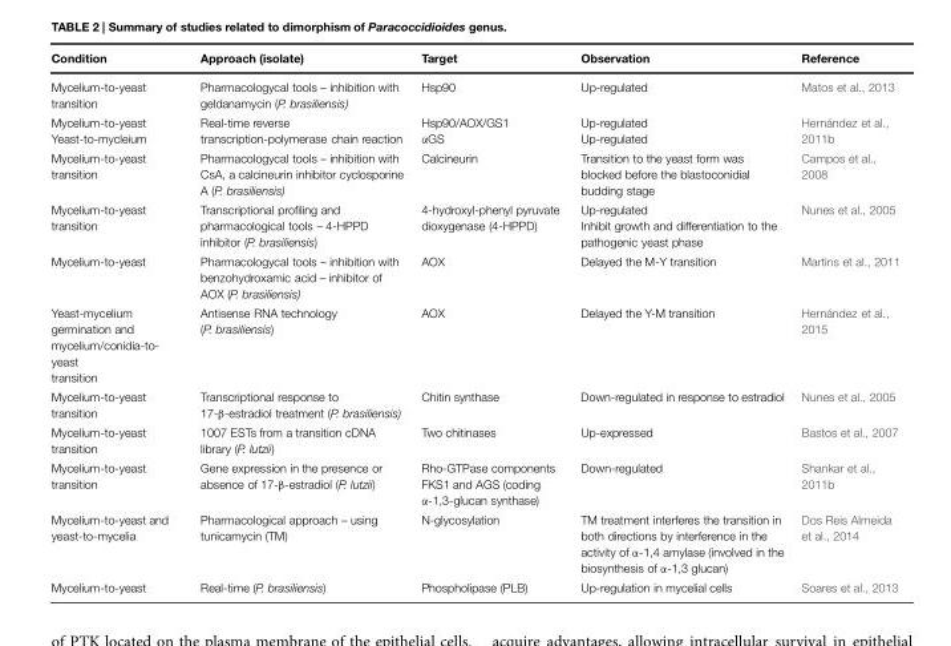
<table><thead><tr><td>Condition</td><td>Approach (isolate)</td><td>Target</td><td>Observation</td><td>Reference</td></tr></thead><tbody><tr><td>Mycelium-to-yeast transition</td><td>Pharmacologycal tools – inhibition with geldanamycin (P. brasiliensis)</td><td>Hsp90</td><td>Up-regulated</td><td>Matos et al., 2013</td></tr><tr><td>Mycelium-to-yeast Yeast-to-mycleium</td><td>Real-time reverse transcription-polymerase chain reaction</td><td>Hsp90/AOX/GS1 αGS</td><td>Up-regulated Up-regulated</td><td>Hernández et al., 2011b</td></tr><tr><td>Mycelium-to-yeast transition</td><td>Pharmacologycal tools – inhibition with CsA, a calcineurin inhibitor cyclosporine A (P. brasiliensis)</td><td>Calcineurin</td><td>Transition to the yeast form was blocked before the blastoconidial budding stage</td><td>Campos et al., 2008</td></tr><tr><td>Mycelium-to-yeast transition</td><td>Transcriptional profiling and pharmacological tools – 4-HPPD inhibitor (P. brasiliensis)</td><td>4-hydroxyl-phenyl pyruvate dioxygenase (4-HPPD)</td><td>Up-regulated Inhibit growth and differentiation to the pathogenic yeast phase</td><td>Nunes et al., 2005</td></tr><tr><td>Mycelium-to-yeast</td><td>Pharmacologycal tools – inhibition with benzohydroxamic acid – inhibitor of AOX (P. brasiliensis)</td><td>AOX</td><td>Delayed the M-Y transition</td><td>Martins et al., 2011</td></tr><tr><td>Yeast-mycelium germination and mycelium/conidia-to- yeast transition</td><td>Antisense RNA technology (P. brasiliensis)</td><td>AOX</td><td>Delayed the Y-M transition</td><td>Hernández et al., 2015</td></tr><tr><td>Mycelium-to-yeast transition</td><td>Transcriptional response to 17-β-estradiol treatment (P. brasiliensis)</td><td>Chitin synthase</td><td>Down-regulated in response to estradiol</td><td>Nunes et al., 2005</td></tr><tr><td>Mycelium-to-yeast transition</td><td>1007 ESTs from a transition cDNA library (P. lutzii)</td><td>Two chitinases</td><td>Up-expressed</td><td>Bastos et al., 2007</td></tr><tr><td>Mycelium-to-yeast transition</td><td>Gene expression in the presence or absence of 17-β-estradiol (P. lutzii)</td><td>Rho-GTPase components FKS1 and AGS (coding α-1,3-glucan synthase)</td><td>Down-regulated</td><td>Shankar et al., 2011b</td></tr><tr><td>Mycelium-to-yeast and yeast-to-mycelia</td><td>Pharmacological approach – using tunicamycin (TM)</td><td>N-glycosylation</td><td>TM treatment interferes the transition in both directions by interference in the activity of α-1,4 amylase (involved in the biosynthesis of α-1,3 glucan)</td><td>Dos Reis Almeida et al., 2014</td></tr><tr><td>Mycelium-to-yeast</td><td>Real-time (P. brasiliensis)</td><td>Phospholipase (PLB)</td><td>Up-regulation in mycelial cells</td><td>Soares et al., 2013</td></tr></tbody></table>